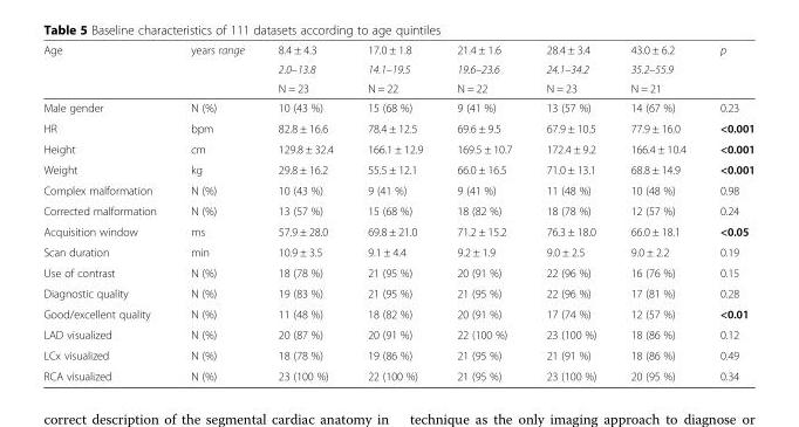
<table><thead><tr><td rowspan="3">Age</td><td rowspan="3">years range</td><td rowspan="3">8.4 ± 4.3 2.0–13.8 N = 23</td><td rowspan="3">17.0 ± 1.8 14.1–19.5 N = 22</td><td rowspan="3">21.4 ± 1.6 19.6–23.6 N = 22</td><td rowspan="3">28.4 ± 3.4 24.1–34.2 N = 23</td><td rowspan="3">43.0 ± 6.2 35.2–55.9 N = 21</td><td rowspan="3">p</td></tr><tr></tr><tr></tr></thead><tbody><tr><td>Male gender</td><td>N (%)</td><td>10 (43 %)</td><td>15 (68 %)</td><td>9 (41 %)</td><td>13 (57 %)</td><td>14 (67 %)</td><td>0.23</td></tr><tr><td>HR</td><td>bpm</td><td>82.8 ± 16.6</td><td>78.4 ± 12.5</td><td>69.6 ± 9.5</td><td>67.9 ± 10.5</td><td>77.9 ± 16.0</td><td>&lt;0.001</td></tr><tr><td>Height</td><td>cm</td><td>129.8 ± 32.4</td><td>166.1 ± 12.9</td><td>169.5 ± 10.7</td><td>172.4 ± 9.2</td><td>166.4 ± 10.4</td><td>&lt;0.001</td></tr><tr><td>Weight</td><td>kg</td><td>29.8 ± 16.2</td><td>55.5 ± 12.1</td><td>66.0 ± 16.5</td><td>71.0 ± 13.1</td><td>68.8 ± 14.9</td><td>&lt;0.001</td></tr><tr><td>Complex malformation</td><td>N (%)</td><td>10 (43 %)</td><td>9 (41 %)</td><td>9 (41 %)</td><td>11 (48 %)</td><td>10 (48 %)</td><td>0.98</td></tr><tr><td>Corrected malformation</td><td>N (%)</td><td>13 (57 %)</td><td>15 (68 %)</td><td>18 (82 %)</td><td>18 (78 %)</td><td>12 (57 %)</td><td>0.24</td></tr><tr><td>Acquisition window</td><td>ms</td><td>57.9 ± 28.0</td><td>69.8 ± 21.0</td><td>71.2 ± 15.2</td><td>76.3 ± 18.0</td><td>66.0 ± 18.1</td><td>&lt;0.05</td></tr><tr><td>Scan duration</td><td>min</td><td>10.9 ± 3.5</td><td>9.1 ± 4.4</td><td>9.2 ± 1.9</td><td>9.0 ± 2.5</td><td>9.0 ± 2.2</td><td>0.19</td></tr><tr><td>Use of contrast</td><td>N (%)</td><td>18 (78 %)</td><td>21 (95 %)</td><td>20 (91 %)</td><td>22 (96 %)</td><td>16 (76 %)</td><td>0.15</td></tr><tr><td>Diagnostic quality</td><td>N (%)</td><td>19 (83 %)</td><td>21 (95 %)</td><td>21 (95 %)</td><td>22 (96 %)</td><td>17 (81 %)</td><td>0.28</td></tr><tr><td>Good/excellent quality</td><td>N (%)</td><td>11 (48 %)</td><td>18 (82 %)</td><td>20 (91 %)</td><td>17 (74 %)</td><td>12 (57 %)</td><td>&lt;0.01</td></tr><tr><td>LAD visualized</td><td>N (%)</td><td>20 (87 %)</td><td>20 (91 %)</td><td>22 (100 %)</td><td>23 (100 %)</td><td>18 (86 %)</td><td>0.12</td></tr><tr><td>LCx visualized</td><td>N (%)</td><td>18 (78 %)</td><td>19 (86 %)</td><td>21 (95 %)</td><td>21 (91 %)</td><td>18 (86 %)</td><td>0.49</td></tr><tr><td>RCA visualized</td><td>N (%)</td><td>23 (100 %)</td><td>22 (100 %)</td><td>21 (95 %)</td><td>23 (100 %)</td><td>20 (95 %)</td><td>0.34</td></tr></tbody></table>